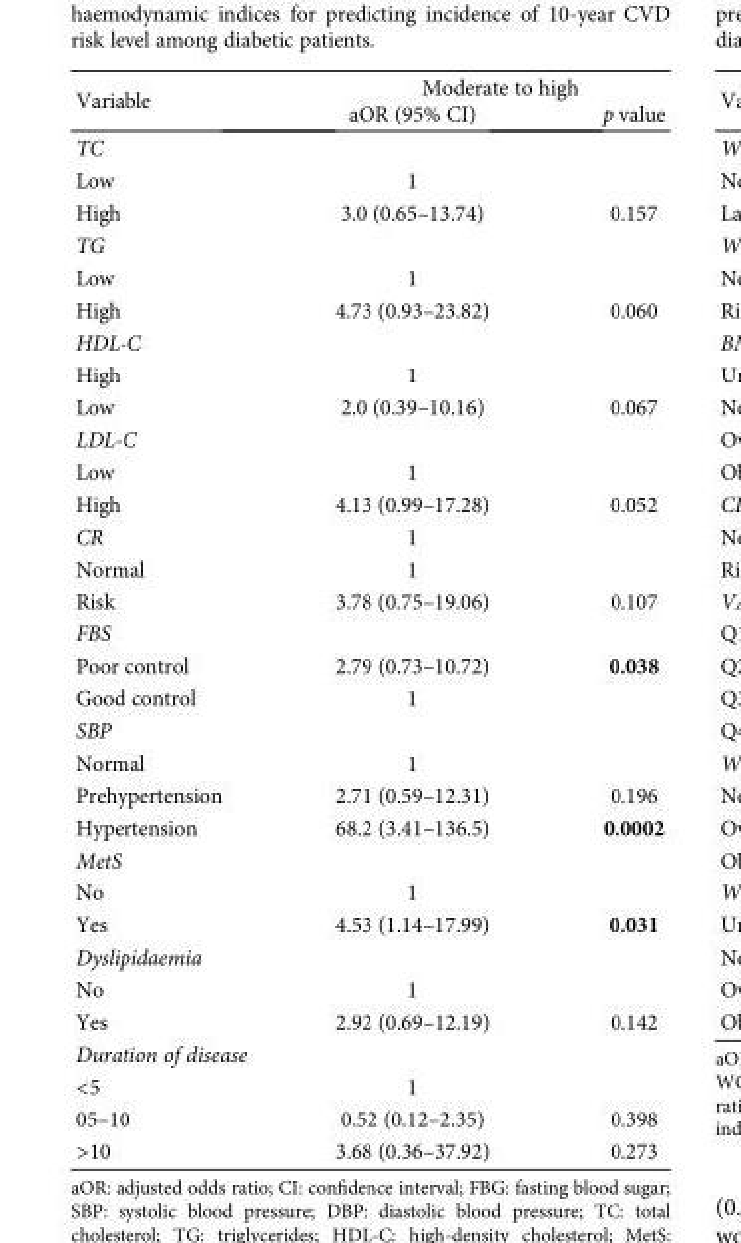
<table><thead><tr><td rowspan="2">Variable</td><td colspan="2">Moderate to high</td></tr><tr><td>aOR (95% CI)</td><td>p value</td></tr></thead><tbody><tr><td colspan="3">TC</td></tr><tr><td>Low</td><td>1</td><td></td></tr><tr><td>High</td><td>3.0 (0.65–13.74)</td><td>0.157</td></tr><tr><td colspan="3">TG</td></tr><tr><td>Low</td><td>1</td><td></td></tr><tr><td>High</td><td>4.73 (0.93–23.82)</td><td>0.060</td></tr><tr><td colspan="3">HDL-C</td></tr><tr><td>High</td><td>1</td><td></td></tr><tr><td>Low</td><td>2.0 (0.39–10.16)</td><td>0.067</td></tr><tr><td colspan="3">LDL-C</td></tr><tr><td>Low</td><td>1</td><td></td></tr><tr><td>High</td><td>4.13 (0.99–17.28)</td><td>0.052</td></tr><tr><td>CR</td><td>1</td><td></td></tr><tr><td>Normal</td><td>1</td><td></td></tr><tr><td>Risk</td><td>3.78 (0.75–19.06)</td><td>0.107</td></tr><tr><td colspan="3">FBS</td></tr><tr><td>Poor control</td><td>2.79 (0.73–10.72)</td><td>0.038</td></tr><tr><td>Good control</td><td>1</td><td></td></tr><tr><td colspan="3">SBP</td></tr><tr><td>Normal</td><td>1</td><td></td></tr><tr><td>Prehypertension</td><td>2.71 (0.59–12.31)</td><td>0.196</td></tr><tr><td>Hypertension</td><td>68.2 (3.41–136.5)</td><td>0.0002</td></tr><tr><td colspan="3">MetS</td></tr><tr><td>No</td><td>1</td><td></td></tr><tr><td>Yes</td><td>4.53 (1.14–17.99)</td><td>0.031</td></tr><tr><td colspan="3">Dyslipidaemia</td></tr><tr><td>No</td><td>1</td><td></td></tr><tr><td>Yes</td><td>2.92 (0.69–12.19)</td><td>0.142</td></tr><tr><td colspan="3">Duration of disease</td></tr><tr><td>&lt;5</td><td>1</td><td></td></tr><tr><td>05–10</td><td>0.52 (0.12–2.35)</td><td>0.398</td></tr><tr><td>&gt;10</td><td>3.68 (0.36–37.92)</td><td>0.273</td></tr></tbody></table>